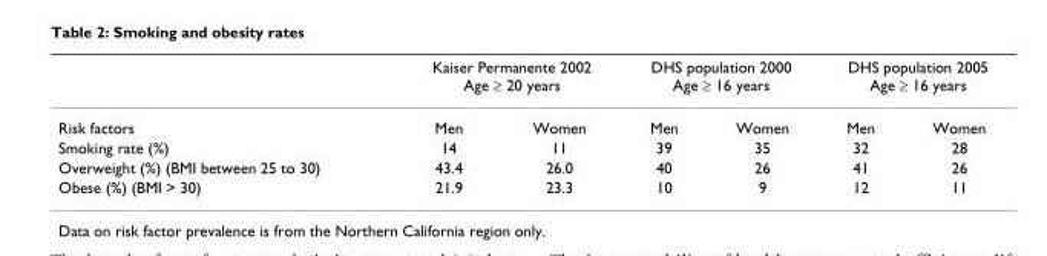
<table><thead><tr><td rowspan="2">Risk factors</td><td colspan="2">Kaiser Permanente 2002 Age ≥ 20 years</td><td colspan="2">DHS population 2000 Age ≥ 16 years</td><td colspan="2">DHS population 2005 Age ≥ 16 years</td></tr><tr><td>Men</td><td>Women</td><td>Men</td><td>Women</td><td>Men</td><td>Women</td></tr></thead><tbody><tr><td>Smoking rate (%)</td><td>14</td><td>11</td><td>39</td><td>35</td><td>32</td><td>28</td></tr><tr><td>Overweight (%) (BMI between 25 to 30)</td><td>43.4</td><td>26.0</td><td>40</td><td>26</td><td>41</td><td>26</td></tr><tr><td>Obese (%) (BMI &gt; 30)</td><td>21.9</td><td>23.3</td><td>10</td><td>9</td><td>12</td><td>11</td></tr></tbody></table>